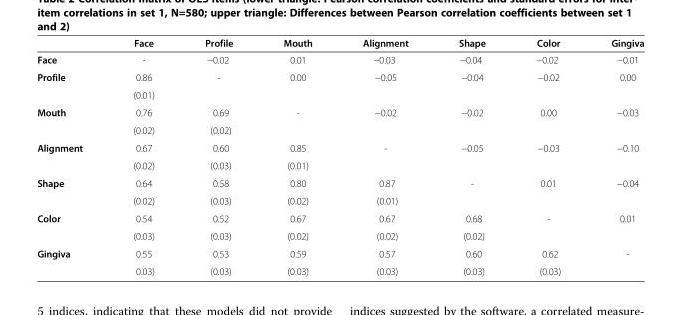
<table><thead><tr><td></td><td>Face</td><td>Profile</td><td>Mouth</td><td>Alignment</td><td>Shape</td><td>Color</td><td>Gingiva</td></tr></thead><tbody><tr><td>Face</td><td>-</td><td>−0.02</td><td>0.01</td><td>−0.03</td><td>−0.04</td><td>−0.02</td><td>−0.01</td></tr><tr><td rowspan="2">Profile</td><td>0.86</td><td>-</td><td>0.00</td><td>−0.05</td><td>−0.04</td><td>−0.02</td><td>0.00</td></tr><tr><td>(0.01)</td><td></td><td></td><td></td><td></td><td></td><td></td></tr><tr><td rowspan="2">Mouth</td><td>0.76</td><td>0.69</td><td>-</td><td>−0.02</td><td>−0.02</td><td>0.00</td><td>−0.03</td></tr><tr><td>(0.02)</td><td>(0.02)</td><td></td><td></td><td></td><td></td><td></td></tr><tr><td rowspan="2">Alignment</td><td>0.67</td><td>0.60</td><td>0.85</td><td>-</td><td>−0.05</td><td>−0.03</td><td>−0.10</td></tr><tr><td>(0.02)</td><td>(0.03)</td><td>(0.01)</td><td></td><td></td><td></td><td></td></tr><tr><td rowspan="2">Shape</td><td>0.64</td><td>0.58</td><td>0.80</td><td>0.87</td><td>-</td><td>0.01</td><td>−0.04</td></tr><tr><td>(0.02)</td><td>(0.03)</td><td>(0.02)</td><td>(0.01)</td><td></td><td></td><td></td></tr><tr><td rowspan="2">Color</td><td>0.54</td><td>0.52</td><td>0.67</td><td>0.67</td><td>0.68</td><td>-</td><td>0.01</td></tr><tr><td>(0.03)</td><td>(0.03)</td><td>(0.02)</td><td>(0.02)</td><td>(0.02)</td><td></td><td></td></tr><tr><td rowspan="2">Gingiva</td><td>0.55</td><td>0.53</td><td>0.59</td><td>0.57</td><td>0.60</td><td>0.62</td><td>-</td></tr><tr><td>0.03)</td><td>(0.03)</td><td>(0.03)</td><td>(0.03)</td><td>(0.03)</td><td>(0.03)</td><td></td></tr></tbody></table>